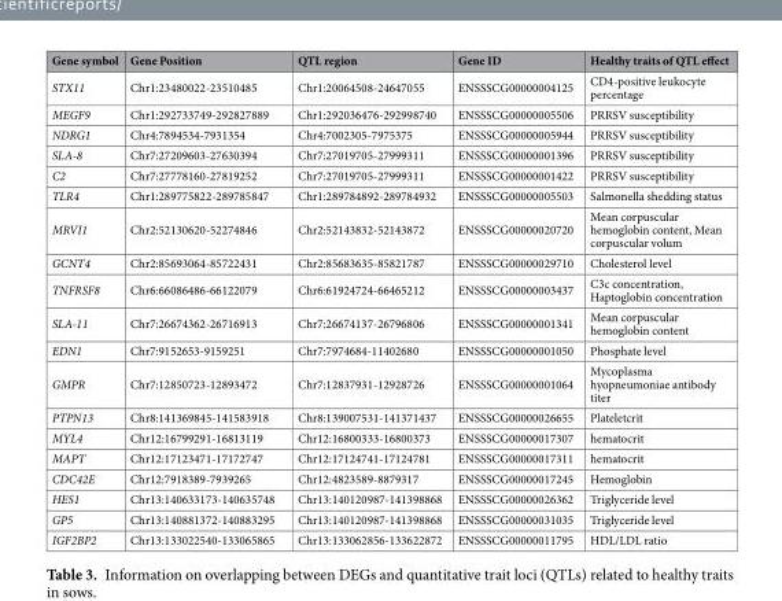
<table><thead><tr><td>Gene symbol</td><td>Gene Position</td><td>QTL region</td><td>Gene ID</td><td>Healthy traits of QTL effect</td></tr></thead><tbody><tr><td>STX11</td><td>Chr1:23480022-23510485</td><td>Chr1:20064508-24647055</td><td>ENSSSCG00000004125</td><td>CD4-positive leukocyte percentage</td></tr><tr><td>MEGF9</td><td>Chr1:292733749-292827889</td><td>Chr1:292036476-292998740</td><td>ENSSSCG00000005506</td><td>PRRSV susceptibility</td></tr><tr><td>NDRG1</td><td>Chr4:7894534-7931354</td><td>Chr4:7002305-7975375</td><td>ENSSSCG00000005944</td><td>PRRSV susceptibility</td></tr><tr><td>SLA-8</td><td>Chr7:27209603-27630394</td><td>Chr7:27019705-27999311</td><td>ENSSSCG00000001396</td><td>PRRSV susceptibility</td></tr><tr><td>C2</td><td>Chr7:27778160-27819252</td><td>Chr7:27019705-27999311</td><td>ENSSSCG00000001422</td><td>PRRSV susceptibility</td></tr><tr><td>TLR4</td><td>Chr1:289775822-289785847</td><td>Chr1:289784892-289784932</td><td>ENSSSCG00000005503</td><td>Salmonella shedding status</td></tr><tr><td>MRVI1</td><td>Chr2:52130620-52274846</td><td>Chr2:52143832-52143872</td><td>ENSSSCG00000020720</td><td>Mean corpuscular hemoglobin content, Mean corpuscular volum</td></tr><tr><td>GCNT4</td><td>Chr2:85693064-85722431</td><td>Chr2:85683635-85821787</td><td>ENSSSCG00000029710</td><td>Cholesterol level</td></tr><tr><td>TNFRSF8</td><td>Chr6:66086486-66122079</td><td>Chr6:61924724-66465212</td><td>ENSSSCG00000003437</td><td>C3c concentration, Haptoglobin concentration</td></tr><tr><td>SLA-11</td><td>Chr7:26674362-26716913</td><td>Chr7:26674137-26796806</td><td>ENSSSCG00000001341</td><td>Mean corpuscular hemoglobin content</td></tr><tr><td>EDN1</td><td>Chr7:9152653-9159251</td><td>Chr7:7974684-11402680</td><td>ENSSSCG00000001050</td><td>Phosphate level</td></tr><tr><td>GMPR</td><td>Chr7:12850723-12893472</td><td>Chr7:12837931-12928726</td><td>ENSSSCG00000001064</td><td>Mycoplasma hyopneumoniae antibody titer</td></tr><tr><td>PTPN13</td><td>Chr8:141369845-141583918</td><td>Chr8:139007531-141371437</td><td>ENSSSCG00000026655</td><td>Plateletcrit</td></tr><tr><td>MYL4</td><td>Chr12:16799291-16813119</td><td>Chr12:16800333-16800373</td><td>ENSSSCG00000017307</td><td>hematocrit</td></tr><tr><td>MAPT</td><td>Chr12:17123471-17172747</td><td>Chr12:17124741-17124781</td><td>ENSSSCG00000017311</td><td>hematocrit</td></tr><tr><td>CDC42E</td><td>Chr12:7918389-7939265</td><td>Chr12:4823589-8879317</td><td>ENSSSCG00000017245</td><td>Hemoglobin</td></tr><tr><td>HES1</td><td>Chr13:140633173-140635748</td><td>Chr13:140120987-141398868</td><td>ENSSSCG00000026362</td><td>Triglyceride level</td></tr><tr><td>GP5</td><td>Chr13:140881372-140883295</td><td>Chr13:140120987-141398868</td><td>ENSSSCG00000031035</td><td>Triglyceride level</td></tr><tr><td>IGF2BP2</td><td>Chr13:133022540-133065865</td><td>Chr13:133062856-133622872</td><td>ENSSSCG00000011795</td><td>HDL/LDL ratio</td></tr></tbody></table>